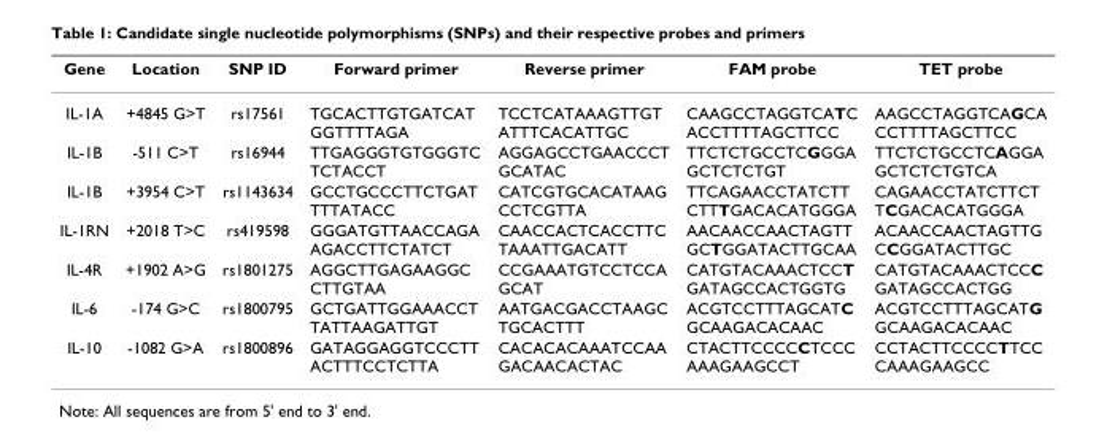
<table><thead><tr><td>Gene</td><td>Location</td><td>SNP ID</td><td>Forward primer</td><td>Reverse primer</td><td>FAM probe</td><td>TET probe</td></tr></thead><tbody><tr><td>IL-1A</td><td>+4845 G&gt;T</td><td>rs17561</td><td>TGCACTTGTGATCAT GGTTTTAGA</td><td>TCCTCATAAAGTTGT ATTTCACATTGC</td><td>CAAGCCTAGGTCATC ACCTTTTAGCTTCC</td><td>AAGCCTAGGTCAGCA CCTTTTAGCTTCC</td></tr><tr><td>IL-1B</td><td>-511 C&gt;T</td><td>rs16944</td><td>TTGAGGGTGTGGGTC TCTACCT</td><td>AGGAGCCTGAACCCT GCATAC</td><td>TTCTCTGCCTCGGGA GCTCTCTGT</td><td>TTCTCTGCCTCAGGA GCTCTCTGTCA</td></tr><tr><td>IL-1B</td><td>+3954 C&gt;T</td><td>rs1143634</td><td>GCCTGCCCTTCTGAT TTTATACC</td><td>CATCGTGCACATAAG CCTCGTTA</td><td>TTCAGAACCTATCTT CTTTGACACATGGGA</td><td>CAGAACCTATCTTCT TCGACACATGGGA</td></tr><tr><td>IL-1RN</td><td>+2018 T&gt;C</td><td>rs419598</td><td>GGGATGTTAACCAGA AGACCTTCTATCT</td><td>CAACCACTCACCTTC TAAATTGACATT</td><td>AACAACCAACTAGTT GCTGGATACTTGCAA</td><td>ACAACCAACTAGTTG CCGGATACTTGC</td></tr><tr><td>IL-4R</td><td>+1902 A&gt;G</td><td>rs1801275</td><td>AGGCTTGAGAAGGC CTTGTAA</td><td>CCGAAATGTCCTCCA GCAT</td><td>CATGTACAAACTCCT GATAGCCACTGGTG</td><td>CATGTACAAACTCCC GATAGCCACTGG</td></tr><tr><td>IL-6</td><td>-174 G&gt;C</td><td>rs1800795</td><td>GCTGATTGGAAACCT TATTAAGATTGT</td><td>AATGACGACCTAAGC TGCACTTT</td><td>ACGTCCTTTAGCATC GCAAGACACAAC</td><td>ACGTCCTTTAGCATG GCAAGACACAAC</td></tr><tr><td>IL-10</td><td>-1082 G&gt;A</td><td>rs1800896</td><td>GATAGGAGGTCCCTT ACTTTCCTCTTA</td><td>CACACACAAATCCAA GACAACACTAC</td><td>CTACTTCCCCCTCCC AAAGAAGCCT</td><td>CCTACTTCCCCTTCC CAAAGAAGCC</td></tr></tbody></table>